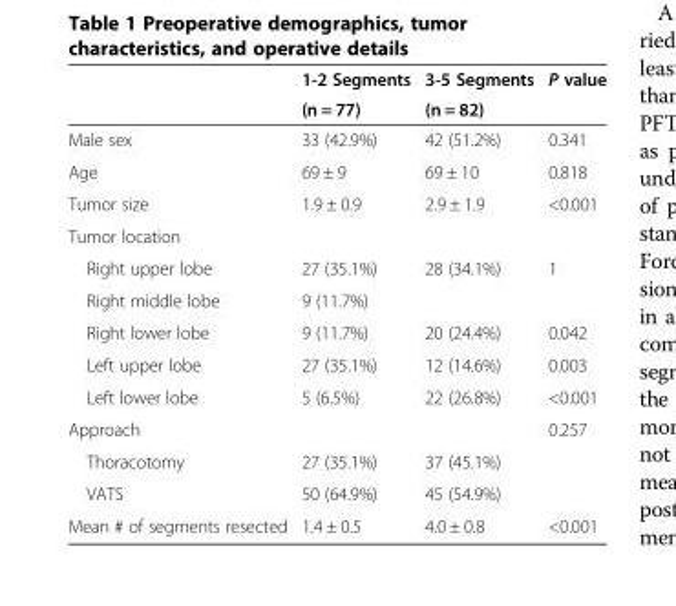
<table><thead><tr><td rowspan="2"></td><td rowspan="2">1-2 Segments (n = 77)</td><td rowspan="2">3-5 Segments (n = 82)</td><td rowspan="2">P value</td></tr><tr></tr></thead><tbody><tr><td>Male sex</td><td>33 (42.9%)</td><td>42 (51.2%)</td><td>0.341</td></tr><tr><td>Age</td><td>69 ± 9</td><td>69 ± 10</td><td>0.818</td></tr><tr><td>Tumor size</td><td>1.9 ± 0.9</td><td>2.9 ± 1.9</td><td>&lt;0.001</td></tr><tr><td colspan="4">Tumor location</td></tr><tr><td>Right upper lobe</td><td>27 (35.1%)</td><td>28 (34.1%)</td><td>1</td></tr><tr><td>Right middle lobe</td><td>9 (11.7%)</td><td></td><td></td></tr><tr><td>Right lower lobe</td><td>9 (11.7%)</td><td>20 (24.4%)</td><td>0.042</td></tr><tr><td>Left upper lobe</td><td>27 (35.1%)</td><td>12 (14.6%)</td><td>0.003</td></tr><tr><td>Left lower lobe</td><td>5 (6.5%)</td><td>22 (26.8%)</td><td>&lt;0.001</td></tr><tr><td>Approach</td><td></td><td></td><td>0.257</td></tr><tr><td>Thoracotomy</td><td>27 (35.1%)</td><td>37 (45.1%)</td><td></td></tr><tr><td>VATS</td><td>50 (64.9%)</td><td>45 (54.9%)</td><td></td></tr><tr><td>Mean # of segments resected</td><td>1.4 ± 0.5</td><td>4.0 ± 0.8</td><td>&lt;0.001</td></tr></tbody></table>